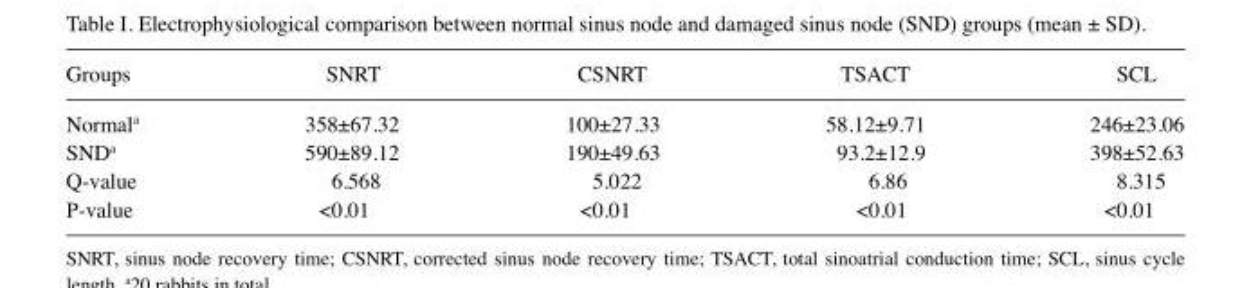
<table><thead><tr><td>Groups</td><td>SNRT</td><td>CSNRT</td><td>TSACT</td><td>SCL</td></tr></thead><tbody><tr><td>Normal<sup>a</sup></td><td>358±67.32</td><td>100±27.33</td><td>58.12±9.71</td><td>246±23.06</td></tr><tr><td>SND<sup>a</sup></td><td>590±89.12</td><td>190±49.63</td><td>93.2±12.9</td><td>398±52.63</td></tr><tr><td>Q-value</td><td>6.568</td><td>5.022</td><td>6.86</td><td>8.315</td></tr><tr><td>P-value</td><td>&lt;0.01</td><td>&lt;0.01</td><td>&lt;0.01</td><td>&lt;0.01</td></tr></tbody></table>